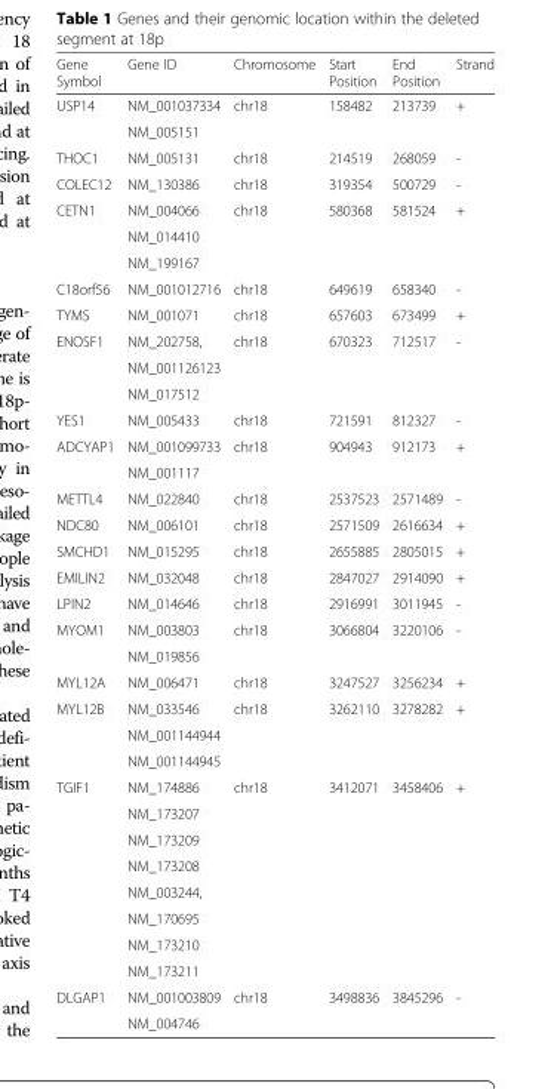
<table><thead><tr><td>Gene Symbol</td><td>Gene ID</td><td>Chromosome</td><td>Start Position</td><td>End Position</td><td>Strand</td></tr></thead><tbody><tr><td rowspan="2">USP14</td><td>NM_001037334</td><td rowspan="2">chr18</td><td rowspan="2">158482</td><td rowspan="2">213739</td><td rowspan="2">+</td></tr><tr><td>NM_005151</td></tr><tr><td>THOC1</td><td>NM_005131</td><td>chr18</td><td>214519</td><td>268059</td><td>-</td></tr><tr><td>COLEC12</td><td>NM_130386</td><td>chr18</td><td>319354</td><td>500729</td><td>-</td></tr><tr><td rowspan="3">CETN1</td><td>NM_004066</td><td rowspan="3">chr18</td><td rowspan="3">580368</td><td rowspan="3">581524</td><td rowspan="3">+</td></tr><tr><td>NM_014410</td></tr><tr><td>NM_199167</td></tr><tr><td>C18orf56</td><td>NM_001012716</td><td>chr18</td><td>649619</td><td>658340</td><td>-</td></tr><tr><td>TYMS</td><td>NM_001071</td><td>chr18</td><td>657603</td><td>673499</td><td>+</td></tr><tr><td rowspan="3">ENOSF1</td><td>NM_202758,</td><td rowspan="3">chr18</td><td rowspan="3">670323</td><td rowspan="3">712517</td><td rowspan="3">-</td></tr><tr><td>NM_001126123</td></tr><tr><td>NM_017512</td></tr><tr><td>YES1</td><td>NM_005433</td><td>chr18</td><td>721591</td><td>812327</td><td>-</td></tr><tr><td rowspan="2">ADCYAP1</td><td>NM_001099733</td><td rowspan="2">chr18</td><td rowspan="2">904943</td><td rowspan="2">912173</td><td rowspan="2">+</td></tr><tr><td>NM_001117</td></tr><tr><td>METTL4</td><td>NM_022840</td><td>chr18</td><td>2537523</td><td>2571489</td><td>-</td></tr><tr><td>NDC80</td><td>NM_006101</td><td>chr18</td><td>2571509</td><td>2616634</td><td>+</td></tr><tr><td>SMCHD1</td><td>NM_015295</td><td>chr18</td><td>2655885</td><td>2805015</td><td>+</td></tr><tr><td>EMILIN2</td><td>NM_032048</td><td>chr18</td><td>2847027</td><td>2914090</td><td>+</td></tr><tr><td>LPIN2</td><td>NM_014646</td><td>chr18</td><td>2916991</td><td>3011945</td><td>-</td></tr><tr><td rowspan="2">MYOM1</td><td>NM_003803</td><td rowspan="2">chr18</td><td rowspan="2">3066804</td><td rowspan="2">3220106</td><td rowspan="2">-</td></tr><tr><td>NM_019856</td></tr><tr><td>MYL12A</td><td>NM_006471</td><td>chr18</td><td>3247527</td><td>3256234</td><td>+</td></tr><tr><td rowspan="3">MYL12B</td><td>NM_033546</td><td rowspan="3">chr18</td><td rowspan="3">3262110</td><td rowspan="3">3278282</td><td rowspan="3">+</td></tr><tr><td>NM_001144944</td></tr><tr><td>NM_001144945</td></tr><tr><td rowspan="8">TGIF1</td><td>NM_174886</td><td rowspan="8">chr18</td><td rowspan="8">3412071</td><td rowspan="8">3458406</td><td rowspan="8">+</td></tr><tr><td>NM_173207</td></tr><tr><td>NM_173209</td></tr><tr><td>NM_173208</td></tr><tr><td>NM_003244,</td></tr><tr><td>NM_170695</td></tr><tr><td>NM_173210</td></tr><tr><td>NM_173211</td></tr><tr><td rowspan="2">DLGAP1</td><td>NM_001003809</td><td rowspan="2">chr18</td><td rowspan="2">3498836</td><td rowspan="2">3845296</td><td rowspan="2">-</td></tr><tr><td>NM_004746</td></tr></tbody></table>